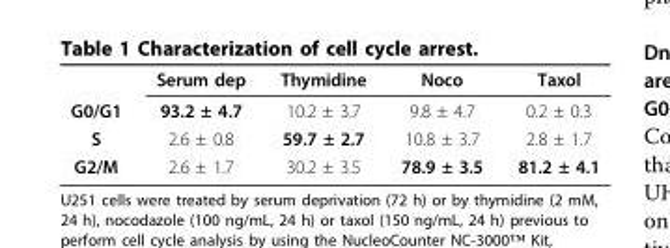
<table><thead><tr><td></td><td>Serum dep</td><td>Thymidine</td><td>Noco</td><td>Taxol</td></tr></thead><tbody><tr><td>G0/G1</td><td>93.2 ± 4.7</td><td>10.2 ± 3.7</td><td>9.8 ± 4.7</td><td>0.2 ± 0.3</td></tr><tr><td>S</td><td>2.6 ± 0.8</td><td>59.7 ± 2.7</td><td>10.8 ± 3.7</td><td>2.8 ± 1.7</td></tr><tr><td>G2/M</td><td>2.6 ± 1.7</td><td>30.2 ± 3.5</td><td>78.9 ± 3.5</td><td>81.2 ± 4.1</td></tr></tbody></table>